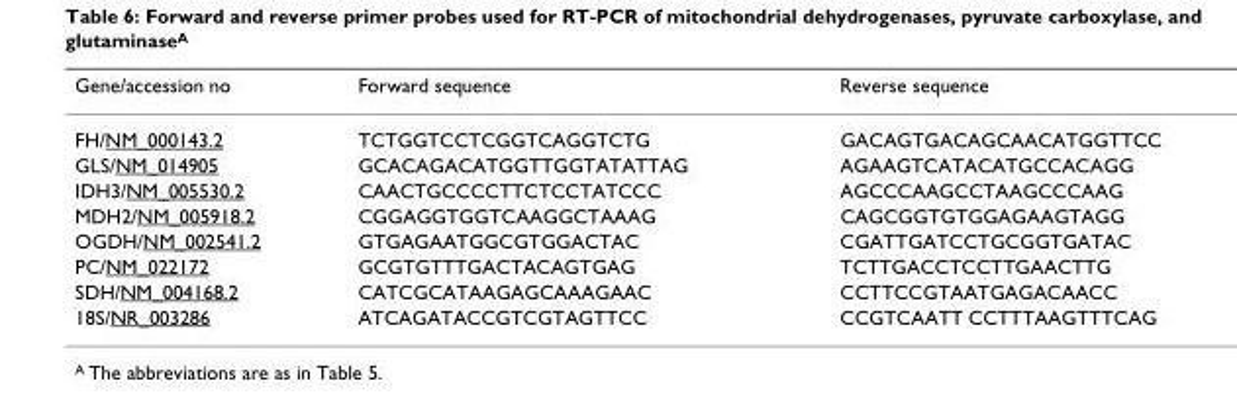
<table><thead><tr><td>Gene/accession no</td><td>Forward sequence</td><td>Reverse sequence</td></tr></thead><tbody><tr><td>FH/NM_000143.2</td><td>TCTGGTCCTCGGTCAGGTCTG</td><td>GACAGTGACAGCAACATGGTTCC</td></tr><tr><td>GLS/NM_014905</td><td>GCACAGACATGGTTGGTATATTAG</td><td>AGAAGTCATACATGCCACAGG</td></tr><tr><td>IDH3/NM_005530.2</td><td>CAACTGCCCCTTCTCCTATCCC</td><td>AGCCCAAGCCTAAGCCCAAG</td></tr><tr><td>MDH2/NM_005918.2</td><td>CGGAGGTGGTCAAGGCTAAAG</td><td>CAGCGGTGTGGAGAAGTAGG</td></tr><tr><td>OGDH/NM_002541.2</td><td>GTGAGAATGGCGTGGACTAC</td><td>CGATTGATCCTGCGGTGATAC</td></tr><tr><td>PC/NM_022172</td><td>GCGTGTTTGACTACAGTGAG</td><td>TCTTGACCTCCTTGAACTTG</td></tr><tr><td>SDH/NM_004168.2</td><td>CATCGCATAAGAGCAAAGAAC</td><td>CCTTCCGTAATGAGACAACC</td></tr><tr><td>18S/NR_003286</td><td>ATCAGATACCGTCGTAGTTCC</td><td>CCGTCAATT CCTTTAAGTTTCAG</td></tr></tbody></table>